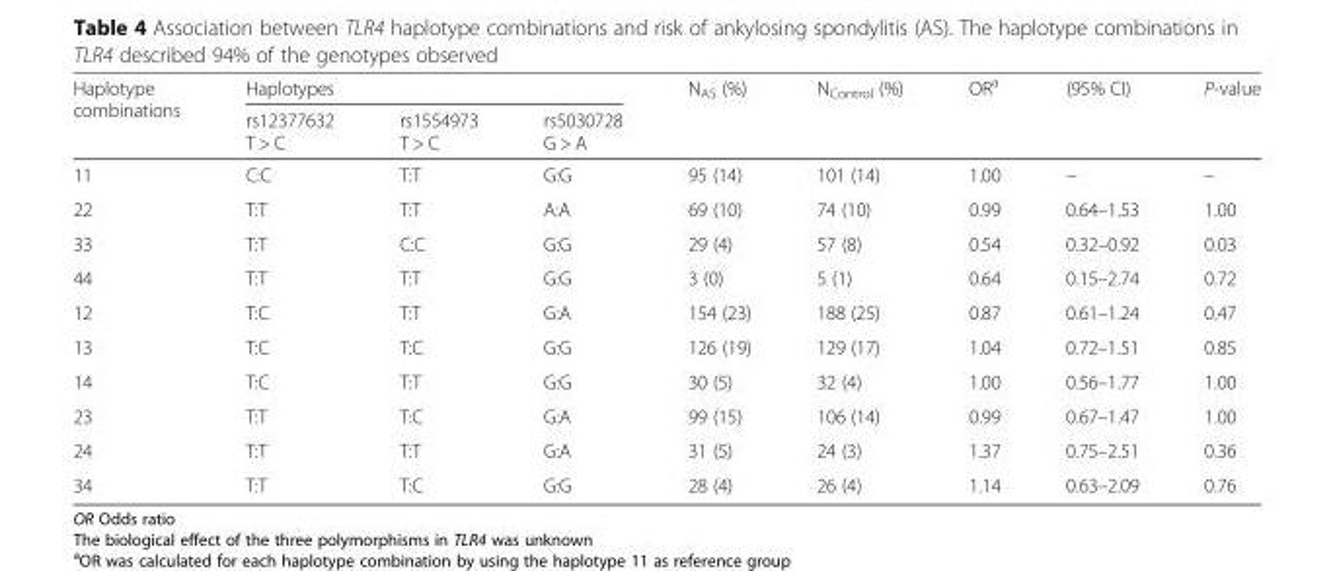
<table><thead><tr><td rowspan="2">Haplotype combinations</td><td colspan="3">Haplotypes</td><td rowspan="2">N<sub>AS</sub> (%)</td><td rowspan="2">N<sub>Control</sub> (%)</td><td rowspan="2">OR<sup>a</sup></td><td rowspan="2">(95% CI)</td><td rowspan="2">P-value</td></tr><tr><td>rs12377632 T &gt; C</td><td>rs1554973 T &gt; C</td><td>rs5030728 G &gt; A</td></tr></thead><tbody><tr><td>11</td><td>C:C</td><td>T:T</td><td>G:G</td><td>95 (14)</td><td>101 (14)</td><td>1.00</td><td>–</td><td>–</td></tr><tr><td>22</td><td>T:T</td><td>T:T</td><td>A:A</td><td>69 (10)</td><td>74 (10)</td><td>0.99</td><td>0.64–1.53</td><td>1.00</td></tr><tr><td>33</td><td>T:T</td><td>C:C</td><td>G:G</td><td>29 (4)</td><td>57 (8)</td><td>0.54</td><td>0.32–0.92</td><td>0.03</td></tr><tr><td>44</td><td>T:T</td><td>T:T</td><td>G:G</td><td>3 (0)</td><td>5 (1)</td><td>0.64</td><td>0.15–2.74</td><td>0.72</td></tr><tr><td>12</td><td>T:C</td><td>T:T</td><td>G:A</td><td>154 (23)</td><td>188 (25)</td><td>0.87</td><td>0.61–1.24</td><td>0.47</td></tr><tr><td>13</td><td>T:C</td><td>T:C</td><td>G:G</td><td>126 (19)</td><td>129 (17)</td><td>1.04</td><td>0.72–1.51</td><td>0.85</td></tr><tr><td>14</td><td>T:C</td><td>T:T</td><td>G:G</td><td>30 (5)</td><td>32 (4)</td><td>1.00</td><td>0.56–1.77</td><td>1.00</td></tr><tr><td>23</td><td>T:T</td><td>T:C</td><td>G:A</td><td>99 (15)</td><td>106 (14)</td><td>0.99</td><td>0.67–1.47</td><td>1.00</td></tr><tr><td>24</td><td>T:T</td><td>T:T</td><td>G:A</td><td>31 (5)</td><td>24 (3)</td><td>1.37</td><td>0.75–2.51</td><td>0.36</td></tr><tr><td>34</td><td>T:T</td><td>T:C</td><td>G:G</td><td>28 (4)</td><td>26 (4)</td><td>1.14</td><td>0.63–2.09</td><td>0.76</td></tr></tbody></table>